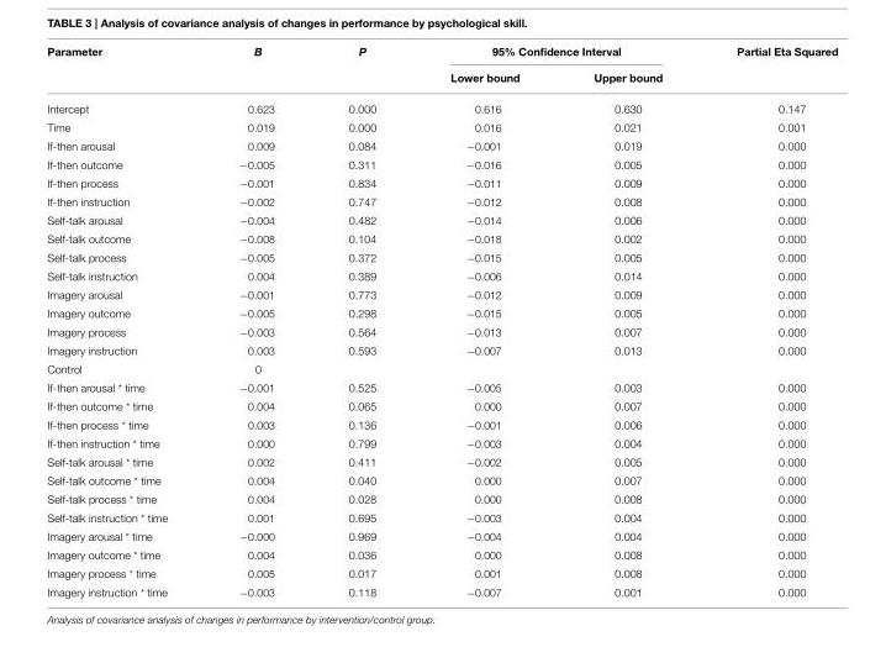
<table><thead><tr><td rowspan="2">Parameter</td><td rowspan="2">B</td><td rowspan="2">P</td><td colspan="2">95% Confidence Interval</td><td rowspan="2">Partial Eta Squared</td></tr><tr><td>Lower bound</td><td>Upper bound</td></tr></thead><tbody><tr><td>Intercept</td><td>0.623</td><td>0.000</td><td>0.616</td><td>0.630</td><td>0.147</td></tr><tr><td>Time</td><td>0.019</td><td>0.000</td><td>0.016</td><td>0.021</td><td>0.001</td></tr><tr><td>If-then arousal</td><td>0.009</td><td>0.084</td><td>−0.001</td><td>0.019</td><td>0.000</td></tr><tr><td>If-then outcome</td><td>−0.005</td><td>0.311</td><td>−0.016</td><td>0.005</td><td>0.000</td></tr><tr><td>If-then process</td><td>−0.001</td><td>0.834</td><td>−0.011</td><td>0.009</td><td>0.000</td></tr><tr><td>If-then instruction</td><td>−0.002</td><td>0.747</td><td>−0.012</td><td>0.008</td><td>0.000</td></tr><tr><td>Self-talk arousal</td><td>−0.004</td><td>0.482</td><td>−0.014</td><td>0.006</td><td>0.000</td></tr><tr><td>Self-talk outcome</td><td>−0.008</td><td>0.104</td><td>−0.018</td><td>0.002</td><td>0.000</td></tr><tr><td>Self-talk process</td><td>−0.005</td><td>0.372</td><td>−0.015</td><td>0.005</td><td>0.000</td></tr><tr><td>Self-talk instruction</td><td>0.004</td><td>0.389</td><td>−0.006</td><td>0.014</td><td>0.000</td></tr><tr><td>Imagery arousal</td><td>−0.001</td><td>0.773</td><td>−0.012</td><td>0.009</td><td>0.000</td></tr><tr><td>Imagery outcome</td><td>−0.005</td><td>0.298</td><td>−0.015</td><td>0.005</td><td>0.000</td></tr><tr><td>Imagery process</td><td>−0.003</td><td>0.564</td><td>−0.013</td><td>0.007</td><td>0.000</td></tr><tr><td>Imagery instruction</td><td>0.003</td><td>0.593</td><td>−0.007</td><td>0.013</td><td>0.000</td></tr><tr><td>Control</td><td>0</td><td></td><td></td><td></td><td></td></tr><tr><td>If-then arousal * time</td><td>−0.001</td><td>0.525</td><td>−0.005</td><td>0.003</td><td>0.000</td></tr><tr><td>If-then outcome * time</td><td>0.004</td><td>0.065</td><td>0.000</td><td>0.007</td><td>0.000</td></tr><tr><td>If-then process * time</td><td>0.003</td><td>0.136</td><td>−0.001</td><td>0.006</td><td>0.000</td></tr><tr><td>If-then instruction * time</td><td>0.000</td><td>0.799</td><td>−0.003</td><td>0.004</td><td>0.000</td></tr><tr><td>Self-talk arousal * time</td><td>0.002</td><td>0.411</td><td>−0.002</td><td>0.005</td><td>0.000</td></tr><tr><td>Self-talk outcome * time</td><td>0.004</td><td>0.040</td><td>0.000</td><td>0.007</td><td>0.000</td></tr><tr><td>Self-talk process * time</td><td>0.004</td><td>0.028</td><td>0.000</td><td>0.008</td><td>0.000</td></tr><tr><td>Self-talk instruction * time</td><td>0.001</td><td>0.695</td><td>−0.003</td><td>0.004</td><td>0.000</td></tr><tr><td>Imagery arousal * time</td><td>−0.000</td><td>0.969</td><td>−0.004</td><td>0.004</td><td>0.000</td></tr><tr><td>Imagery outcome * time</td><td>0.004</td><td>0.036</td><td>0.000</td><td>0.008</td><td>0.000</td></tr><tr><td>Imagery process * time</td><td>0.005</td><td>0.017</td><td>0.001</td><td>0.008</td><td>0.000</td></tr><tr><td>Imagery instruction * time</td><td>−0.003</td><td>0.118</td><td>−0.007</td><td>0.001</td><td>0.000</td></tr></tbody></table>